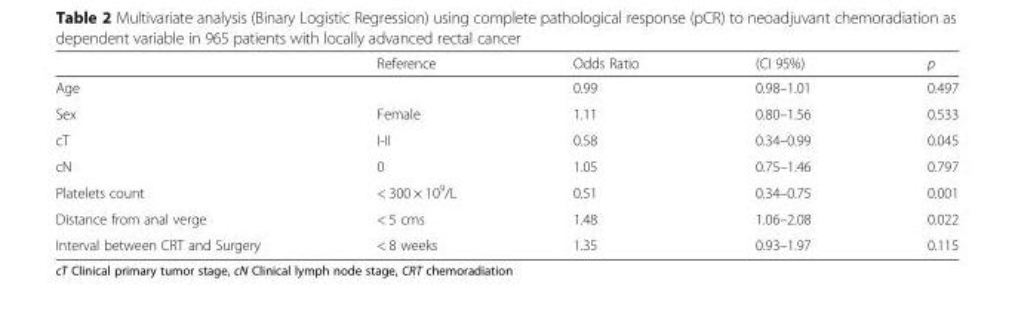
<table><thead><tr><td></td><td>Reference</td><td>Odds Ratio</td><td>(CI 95%)</td><td>p</td></tr></thead><tbody><tr><td>Age</td><td></td><td>0.99</td><td>0.98–1.01</td><td>0.497</td></tr><tr><td>Sex</td><td>Female</td><td>1.11</td><td>0.80–1.56</td><td>0.533</td></tr><tr><td>cT</td><td>I-II</td><td>0.58</td><td>0.34–0.99</td><td>0.045</td></tr><tr><td>cN</td><td>0</td><td>1.05</td><td>0.75–1.46</td><td>0.797</td></tr><tr><td>Platelets count</td><td>&lt; 300 × 10<sup>9</sup>/L</td><td>0.51</td><td>0.34–0.75</td><td>0.001</td></tr><tr><td>Distance from anal verge</td><td>&lt; 5 cms</td><td>1.48</td><td>1.06–2.08</td><td>0.022</td></tr><tr><td>Interval between CRT and Surgery</td><td>&lt; 8 weeks</td><td>1.35</td><td>0.93–1.97</td><td>0.115</td></tr></tbody></table>